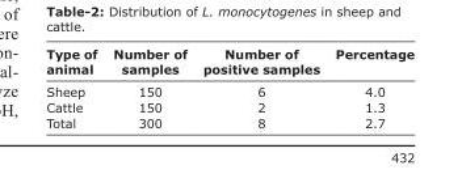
<table><thead><tr><td>Type of animal</td><td>Number of samples</td><td>Number of positive samples</td><td>Percentage</td></tr></thead><tbody><tr><td>Sheep</td><td>150</td><td>6</td><td>4.0</td></tr><tr><td>Cattle</td><td>150</td><td>2</td><td>1.3</td></tr><tr><td>Total</td><td>300</td><td>8</td><td>2.7</td></tr></tbody></table>